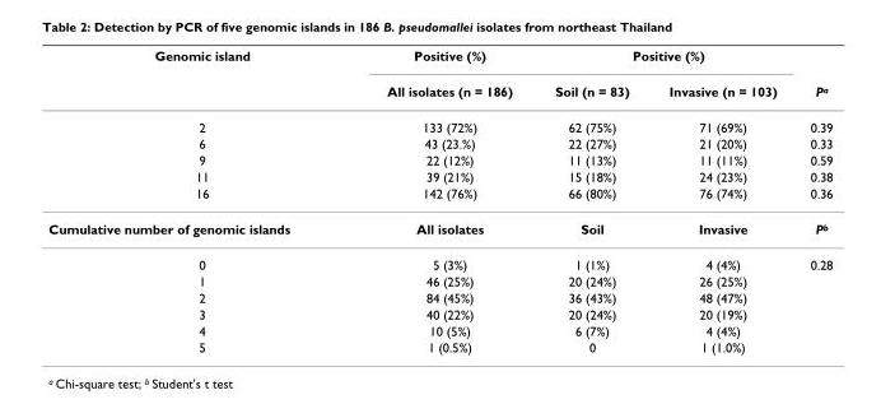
<table><thead><tr><td rowspan="2">Genomic island</td><td rowspan="2">Positive (%) All isolates (n = 186)</td><td colspan="2">Positive (%)</td><td rowspan="2">P<sup>a</sup></td></tr><tr><td>Soil (n = 83)</td><td>Invasive (n = 103)</td></tr></thead><tbody><tr><td>2</td><td>133 (72%)</td><td>62 (75%)</td><td>71 (69%)</td><td>0.39</td></tr><tr><td>6</td><td>43 (23.%)</td><td>22 (27%)</td><td>21 (20%)</td><td>0.33</td></tr><tr><td>9</td><td>22 (12%)</td><td>11 (13%)</td><td>11 (11%)</td><td>0.59</td></tr><tr><td>11</td><td>39 (21%)</td><td>15 (18%)</td><td>24 (23%)</td><td>0.38</td></tr><tr><td>16</td><td>142 (76%)</td><td>66 (80%)</td><td>76 (74%)</td><td>0.36</td></tr><tr><td>Cumulative number of genomic islands</td><td>All isolates</td><td>Soil</td><td>Invasive</td><td>P<sup>b</sup></td></tr><tr><td>0</td><td>5 (3%)</td><td>1 (1%)</td><td>4 (4%)</td><td>0.28</td></tr><tr><td>1</td><td>46 (25%)</td><td>20 (24%)</td><td>26 (25%)</td><td></td></tr><tr><td>2</td><td>84 (45%)</td><td>36 (43%)</td><td>48 (47%)</td><td></td></tr><tr><td>3</td><td>40 (22%)</td><td>20 (24%)</td><td>20 (19%)</td><td></td></tr><tr><td>4</td><td>10 (5%)</td><td>6 (7%)</td><td>4 (4%)</td><td></td></tr><tr><td>5</td><td>1 (0.5%)</td><td>0</td><td>1 (1.0%)</td><td></td></tr></tbody></table>